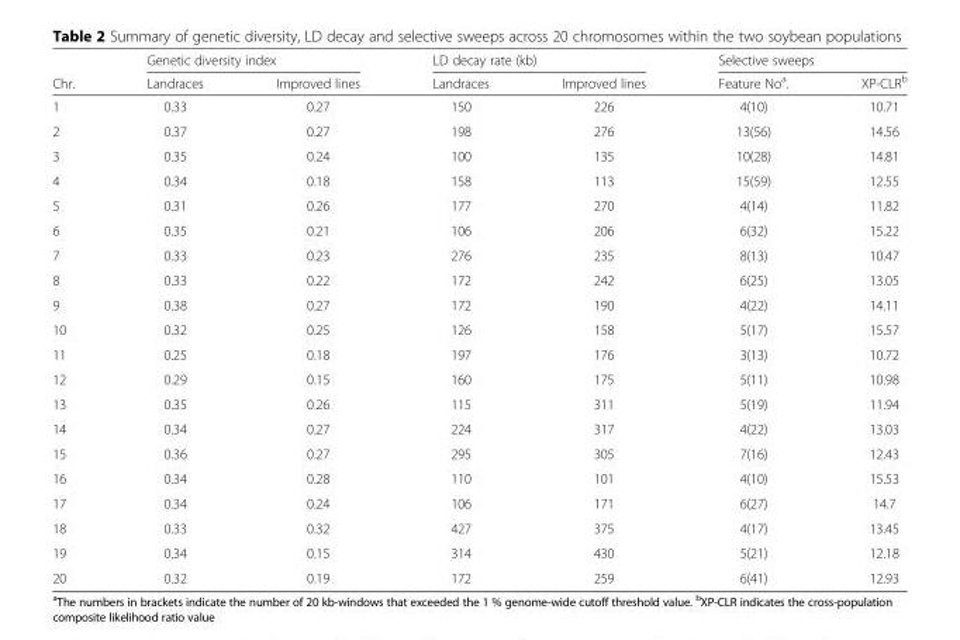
<table><thead><tr><td rowspan="2">Chr.</td><td colspan="2">Genetic diversity index</td><td colspan="2">LD decay rate (kb)</td><td colspan="2">Selective sweeps</td></tr><tr><td>Landraces</td><td>Improved lines</td><td>Landraces</td><td>Improved lines</td><td>Feature No<sup>a</sup>.</td><td>XP-CLR<sup>b</sup></td></tr></thead><tbody><tr><td>1</td><td>0.33</td><td>0.27</td><td>150</td><td>226</td><td>4(10)</td><td>10.71</td></tr><tr><td>2</td><td>0.37</td><td>0.27</td><td>198</td><td>276</td><td>13(56)</td><td>14.56</td></tr><tr><td>3</td><td>0.35</td><td>0.24</td><td>100</td><td>135</td><td>10(28)</td><td>14.81</td></tr><tr><td>4</td><td>0.34</td><td>0.18</td><td>158</td><td>113</td><td>15(59)</td><td>12.55</td></tr><tr><td>5</td><td>0.31</td><td>0.26</td><td>177</td><td>270</td><td>4(14)</td><td>11.82</td></tr><tr><td>6</td><td>0.35</td><td>0.21</td><td>106</td><td>206</td><td>6(32)</td><td>15.22</td></tr><tr><td>7</td><td>0.33</td><td>0.23</td><td>276</td><td>235</td><td>8(13)</td><td>10.47</td></tr><tr><td>8</td><td>0.33</td><td>0.22</td><td>172</td><td>242</td><td>6(25)</td><td>13.05</td></tr><tr><td>9</td><td>0.38</td><td>0.27</td><td>172</td><td>190</td><td>4(22)</td><td>14.11</td></tr><tr><td>10</td><td>0.32</td><td>0.25</td><td>126</td><td>158</td><td>5(17)</td><td>15.57</td></tr><tr><td>11</td><td>0.25</td><td>0.18</td><td>197</td><td>176</td><td>3(13)</td><td>10.72</td></tr><tr><td>12</td><td>0.29</td><td>0.15</td><td>160</td><td>175</td><td>5(11)</td><td>10.98</td></tr><tr><td>13</td><td>0.35</td><td>0.26</td><td>115</td><td>311</td><td>5(19)</td><td>11.94</td></tr><tr><td>14</td><td>0.34</td><td>0.27</td><td>224</td><td>317</td><td>4(22)</td><td>13.03</td></tr><tr><td>15</td><td>0.36</td><td>0.27</td><td>295</td><td>305</td><td>7(16)</td><td>12.43</td></tr><tr><td>16</td><td>0.34</td><td>0.28</td><td>110</td><td>101</td><td>4(10)</td><td>15.53</td></tr><tr><td>17</td><td>0.34</td><td>0.24</td><td>106</td><td>171</td><td>6(27)</td><td>14.7</td></tr><tr><td>18</td><td>0.33</td><td>0.32</td><td>427</td><td>375</td><td>4(17)</td><td>13.45</td></tr><tr><td>19</td><td>0.34</td><td>0.15</td><td>314</td><td>430</td><td>5(21)</td><td>12.18</td></tr><tr><td>20</td><td>0.32</td><td>0.19</td><td>172</td><td>259</td><td>6(41)</td><td>12.93</td></tr></tbody></table>